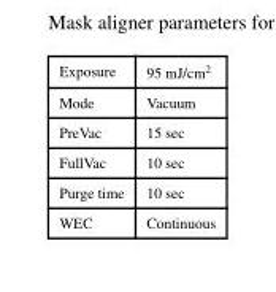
<table><tbody><tr><td>Exposure</td><td>95 mJ/cm<sup>2</sup></td></tr><tr><td>Mode</td><td>Vacuum</td></tr><tr><td>PreVac</td><td>15 sec</td></tr><tr><td>FullVac</td><td>10 sec</td></tr><tr><td>Purge time</td><td>10 sec</td></tr><tr><td>WEC</td><td>Continuous</td></tr></tbody></table>